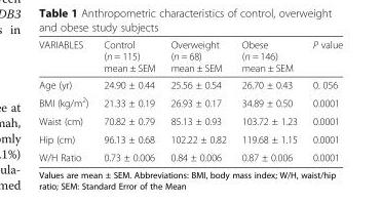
<table><thead><tr><td>VARIABLES</td><td>Control (n = 115) mean ± SEM</td><td>Overweight (n = 68) mean ± SEM</td><td>Obese (n = 146) mean ± SEM</td><td>P value</td></tr></thead><tbody><tr><td>Age (yr)</td><td>24.90 ± 0.44</td><td>25.56 ± 0.54</td><td>26.70 ± 0.43</td><td>0. 056</td></tr><tr><td>BMI (kg/m<sup>2</sup>)</td><td>21.33 ± 0.19</td><td>26.93 ± 0.17</td><td>34.89 ± 0.50</td><td>0.0001</td></tr><tr><td>Waist (cm)</td><td>70.82 ± 0.79</td><td>85.13 ± 0.93</td><td>103.72 ± 1.23</td><td>0.0001</td></tr><tr><td>Hip (cm)</td><td>96.13 ± 0.68</td><td>102.22 ± 0.82</td><td>119.68 ± 1.15</td><td>0.0001</td></tr><tr><td>W/H Ratio</td><td>0.73 ± 0.006</td><td>0.84 ± 0.006</td><td>0.87 ± 0.006</td><td>0.0001</td></tr></tbody></table>